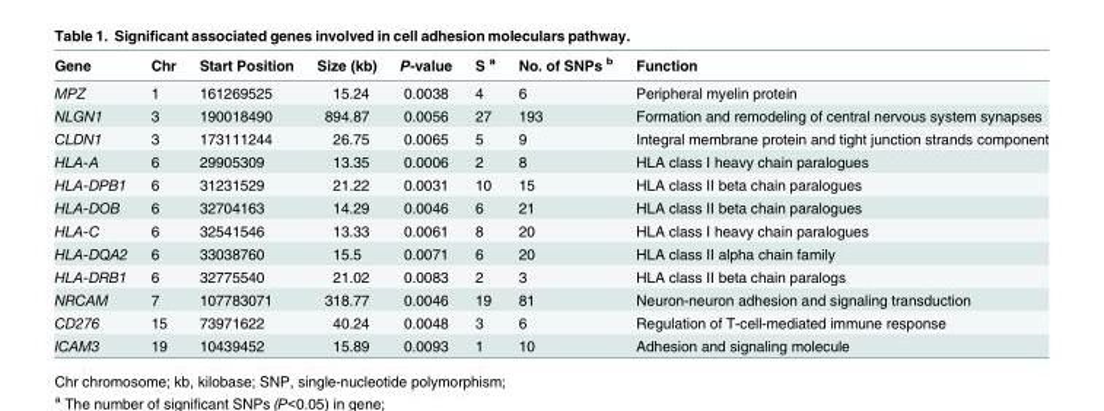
<table><thead><tr><td>Gene</td><td>Chr</td><td>Start Position</td><td>Size (kb)</td><td>P-value</td><td>S <sup>a</sup></td><td>No. of SNPs <sup>b</sup></td><td>Function</td></tr></thead><tbody><tr><td>MPZ</td><td>1</td><td>161269525</td><td>15.24</td><td>0.0038</td><td>4</td><td>6</td><td>Peripheral myelin protein</td></tr><tr><td>NLGN1</td><td>3</td><td>190018490</td><td>894.87</td><td>0.0056</td><td>27</td><td>193</td><td>Formation and remodeling of central nervous system synapses</td></tr><tr><td>CLDN1</td><td>3</td><td>173111244</td><td>26.75</td><td>0.0065</td><td>5</td><td>9</td><td>Integral membrane protein and tight junction strands component</td></tr><tr><td>HLA-A</td><td>6</td><td>29905309</td><td>13.35</td><td>0.0006</td><td>2</td><td>8</td><td>HLA class I heavy chain paralogues</td></tr><tr><td>HLA-DPB1</td><td>6</td><td>31231529</td><td>21.22</td><td>0.0031</td><td>10</td><td>15</td><td>HLA class II beta chain paralogues</td></tr><tr><td>HLA-DOB</td><td>6</td><td>32704163</td><td>14.29</td><td>0.0046</td><td>6</td><td>21</td><td>HLA class II beta chain paralogues</td></tr><tr><td>HLA-C</td><td>6</td><td>32541546</td><td>13.33</td><td>0.0061</td><td>8</td><td>20</td><td>HLA class I heavy chain paralogues</td></tr><tr><td>HLA-DQA2</td><td>6</td><td>33038760</td><td>15.5</td><td>0.0071</td><td>6</td><td>20</td><td>HLA class II alpha chain family</td></tr><tr><td>HLA-DRB1</td><td>6</td><td>32775540</td><td>21.02</td><td>0.0083</td><td>2</td><td>3</td><td>HLA class II beta chain paralogs</td></tr><tr><td>NRCAM</td><td>7</td><td>107783071</td><td>318.77</td><td>0.0046</td><td>19</td><td>81</td><td>Neuron-neuron adhesion and signaling transduction</td></tr><tr><td>CD276</td><td>15</td><td>73971622</td><td>40.24</td><td>0.0048</td><td>3</td><td>6</td><td>Regulation of T-cell-mediated immune response</td></tr><tr><td>ICAM3</td><td>19</td><td>10439452</td><td>15.89</td><td>0.0093</td><td>1</td><td>10</td><td>Adhesion and signaling molecule</td></tr></tbody></table>